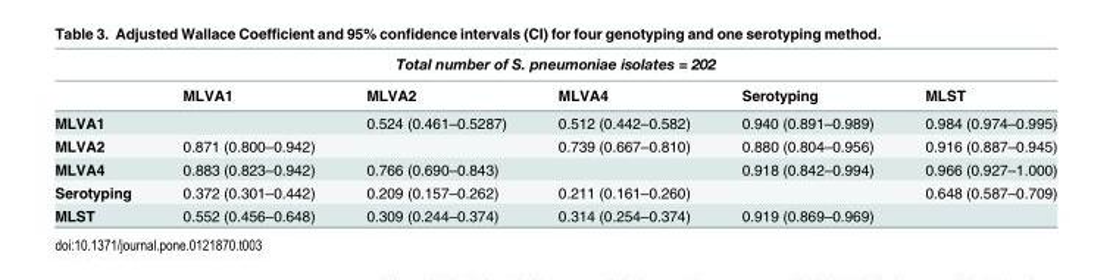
<table><thead><tr><td colspan="6">Total number of S. pneumoniae isolates = 202</td></tr><tr><td></td><td>MLVA1</td><td>MLVA2</td><td>MLVA4</td><td>Serotyping</td><td>MLST</td></tr></thead><tbody><tr><td>MLVA1</td><td></td><td>0.524 (0.461–0.5287)</td><td>0.512 (0.442–0.582)</td><td>0.940 (0.891–0.989)</td><td>0.984 (0.974–0.995)</td></tr><tr><td>MLVA2</td><td>0.871 (0.800–0.942)</td><td></td><td>0.739 (0.667–0.810)</td><td>0.880 (0.804–0.956)</td><td>0.916 (0.887–0.945)</td></tr><tr><td>MLVA4</td><td>0.883 (0.823–0.942)</td><td>0.766 (0.690–0.843)</td><td></td><td>0.918 (0.842–0.994)</td><td>0.966 (0.927–1.000)</td></tr><tr><td>Serotyping</td><td>0.372 (0.301–0.442)</td><td>0.209 (0.157–0.262)</td><td>0.211 (0.161–0.260)</td><td></td><td>0.648 (0.587–0.709)</td></tr><tr><td>MLST</td><td>0.552 (0.456–0.648)</td><td>0.309 (0.244–0.374)</td><td>0.314 (0.254–0.374)</td><td>0.919 (0.869–0.969)</td><td></td></tr></tbody></table>